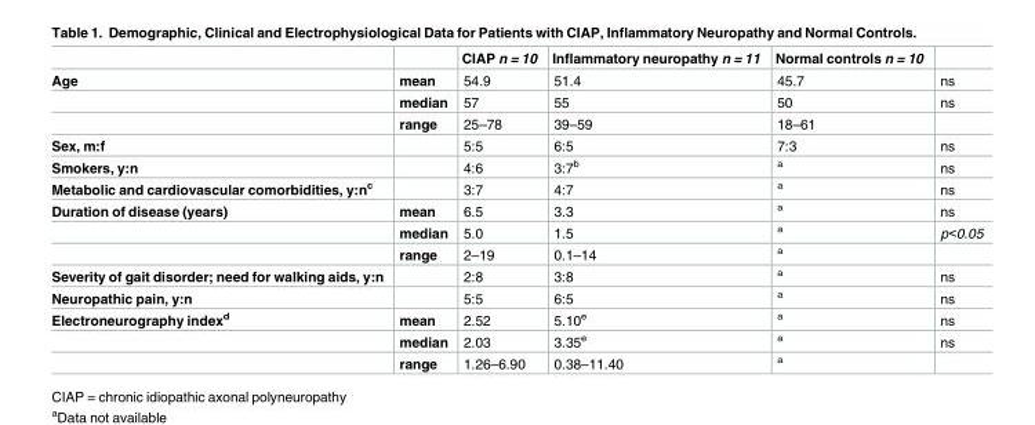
<table><thead><tr><td></td><td></td><td>CIAP n = 10</td><td>Inflammatory neuropathy n = 11</td><td>Normal controls n = 10</td><td></td></tr></thead><tbody><tr><td rowspan="3">Age</td><td>mean</td><td>54.9</td><td>51.4</td><td>45.7</td><td>ns</td></tr><tr><td>median</td><td>57</td><td>55</td><td>50</td><td>ns</td></tr><tr><td>range</td><td>25–78</td><td>39–59</td><td>18–61</td><td></td></tr><tr><td>Sex, m:f</td><td></td><td>5:5</td><td>6:5</td><td>7:3</td><td>ns</td></tr><tr><td>Smokers, y:n</td><td></td><td>4:6</td><td>3:7<sup>b</sup></td><td><sup>a</sup></td><td>ns</td></tr><tr><td>Metabolic and cardiovascular comorbidities, y:n<sup>c</sup></td><td></td><td>3:7</td><td>4:7</td><td><sup>a</sup></td><td>ns</td></tr><tr><td rowspan="3">Duration of disease (years)</td><td>mean</td><td>6.5</td><td>3.3</td><td><sup>a</sup></td><td>ns</td></tr><tr><td>median</td><td>5.0</td><td>1.5</td><td><sup>a</sup></td><td>p&lt;0.05</td></tr><tr><td>range</td><td>2–19</td><td>0.1–14</td><td><sup>a</sup></td><td></td></tr><tr><td>Severity of gait disorder; need for walking aids, y:n</td><td></td><td>2:8</td><td>3:8</td><td><sup>a</sup></td><td>ns</td></tr><tr><td>Neuropathic pain, y:n</td><td></td><td>5:5</td><td>6:5</td><td><sup>a</sup></td><td>ns</td></tr><tr><td rowspan="3">Electroneurography index<sup>d</sup></td><td>mean</td><td>2.52</td><td>5.10<sup>e</sup></td><td><sup>a</sup></td><td>ns</td></tr><tr><td>median</td><td>2.03</td><td>3.35<sup>e</sup></td><td><sup>a</sup></td><td>ns</td></tr><tr><td>range</td><td>1.26–6.90</td><td>0.38–11.40</td><td><sup>a</sup></td><td></td></tr></tbody></table>